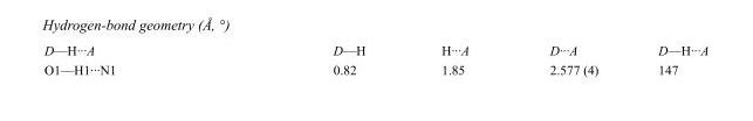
<table><tbody><tr><td>D—H···A</td><td>D—H</td><td>H···A</td><td>D···A</td><td>D—H···A</td></tr><tr><td>O1—H1···N1</td><td>0.82</td><td>1.85</td><td>2.577 (4)</td><td>147</td></tr></tbody></table>